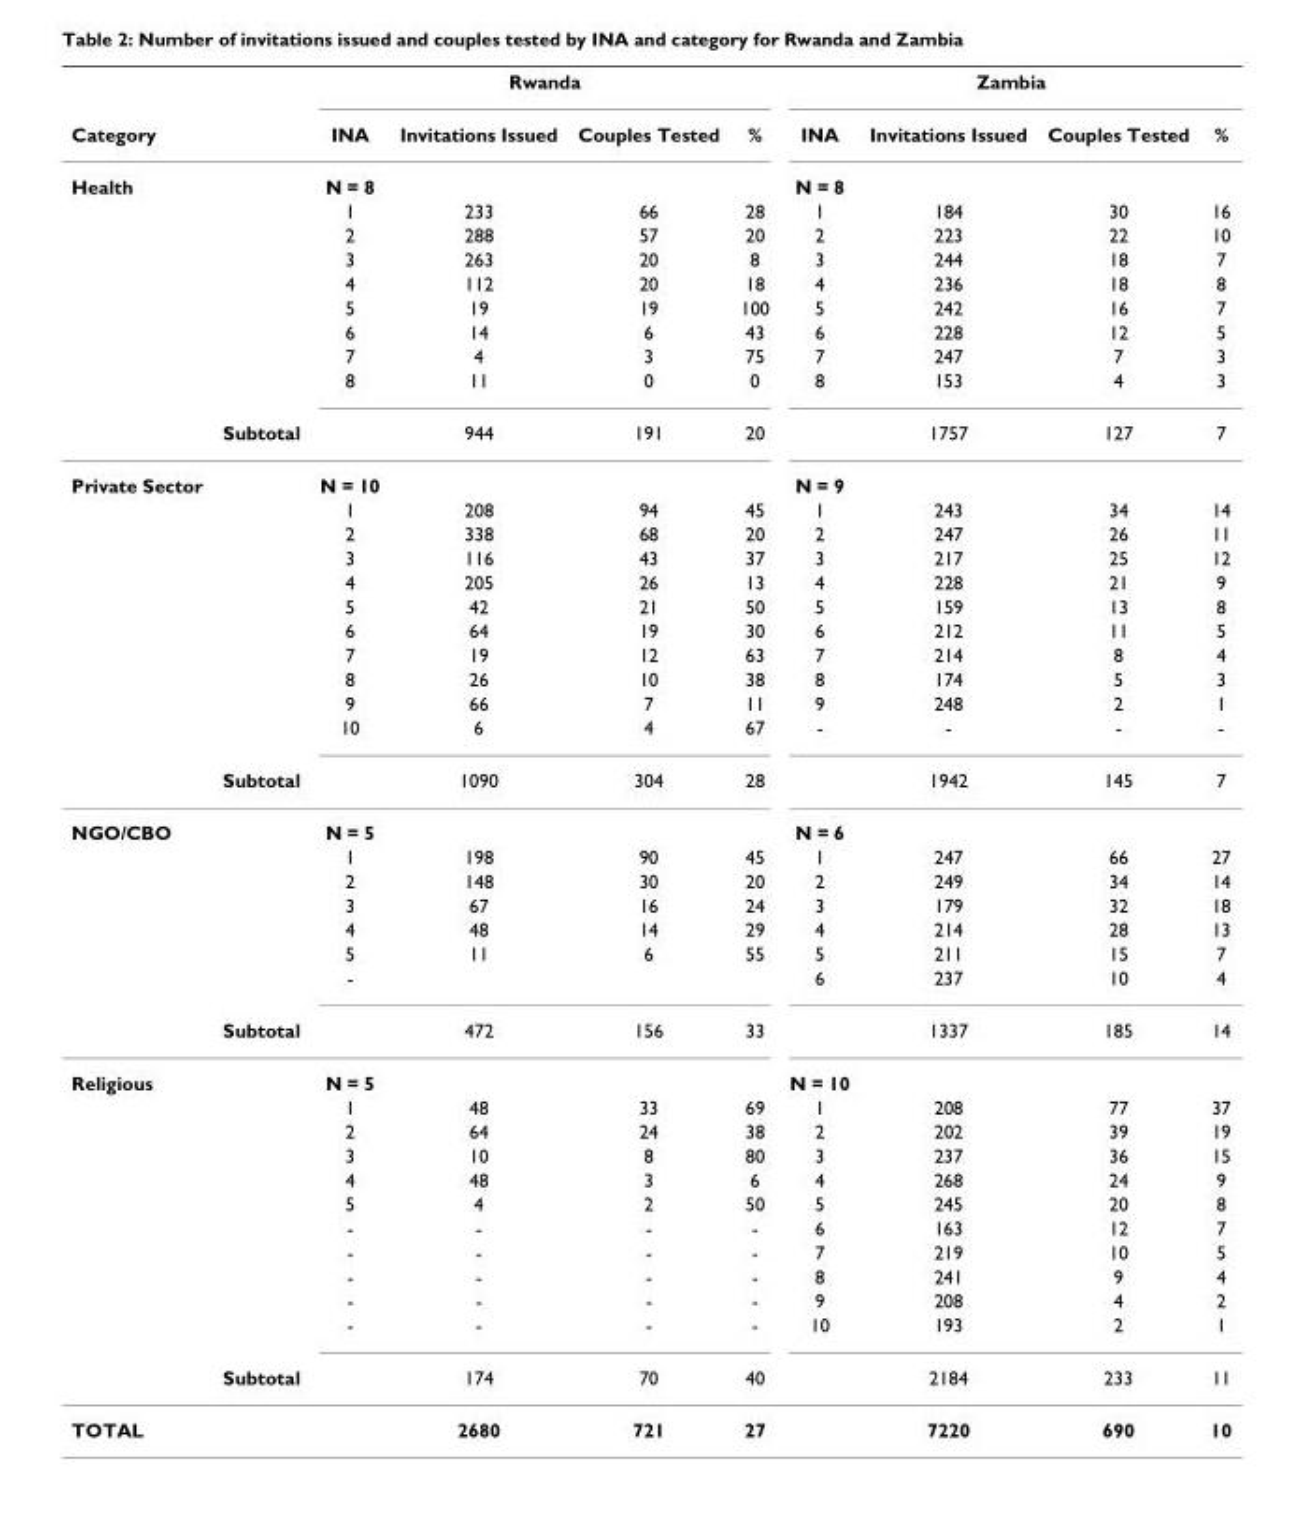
<table><thead><tr><td rowspan="44">Category Health Private Sector NGO/CBO Religious</td><td rowspan="44">Subtotal Subtotal Subtotal Subtotal</td><td colspan="4">Rwanda</td><td colspan="4">Zambia</td></tr><tr><td rowspan="43">INA N = 8 1 2 3 4 5 6 7 8 N = 10 1 2 3 4 5 6 7 8 9 10 N = 5 1 2 3 4 5 - N = 5 1 2 3 4 5 - - - - -</td><td rowspan="43">Invitations Issued 233 288 263 112 19 14 4 11 944 208 338 116 205 42 64 19 26 66 6 1090 198 148 67 48 11 472 48 64 10 48 4 - - - - - 174</td><td rowspan="43">Couples Tested 66 57 20 20 19 6 3 0 191 94 68 43 26 21 19 12 10 7 4 304 90 30 16 14 6 156 33 24 8 3 2 - - - - - 70</td><td rowspan="43">% 28 20 8 18 100 43 75 0 20 45 20 37 13 50 30 63 38 11 67 28 45 20 24 29 55 33 69 38 80 6 50 - - - - - 40</td><td rowspan="43">INA N = 8 1 2 3 4 5 6 7 8 N = 9 1 2 3 4 5 6 7 8 9 - N = 6 1 2 3 4 5 6 N = 10 1 2 3 4 5 6 7 8 9 10</td><td rowspan="43">Invitations Issued 184 223 244 236 242 228 247 153 1757 243 247 217 228 159 212 214 174 248 - 1942 247 249 179 214 211 237 1337 208 202 237 268 245 163 219 241 208 193 2184</td><td rowspan="43">Couples Tested 30 22 18 18 16 12 7 4 127 34 26 25 21 13 11 8 5 2 - 145 66 34 32 28 15 10 185 77 39 36 24 20 12 10 9 4 2 233</td><td rowspan="43">% 16 10 7 8 7 5 3 3 7 14 11 12 9 8 5 4 3 1 - 7 27 14 18 13 7 4 14 37 19 15 9 8 7 5 4 2 1 11</td></tr><tr></tr><tr></tr><tr></tr><tr></tr><tr></tr><tr></tr><tr></tr><tr></tr><tr></tr><tr></tr><tr></tr><tr></tr><tr></tr><tr></tr><tr></tr><tr></tr><tr></tr><tr></tr><tr></tr><tr></tr><tr></tr><tr></tr><tr></tr><tr></tr><tr></tr><tr></tr><tr></tr><tr></tr><tr></tr><tr></tr><tr></tr><tr></tr><tr></tr><tr></tr><tr></tr><tr></tr><tr></tr><tr></tr><tr></tr><tr></tr><tr></tr><tr></tr></thead><tbody><tr><td>TOTAL</td><td></td><td></td><td>2680</td><td>721</td><td>27</td><td></td><td>7220</td><td>690</td><td>10</td></tr></tbody></table>